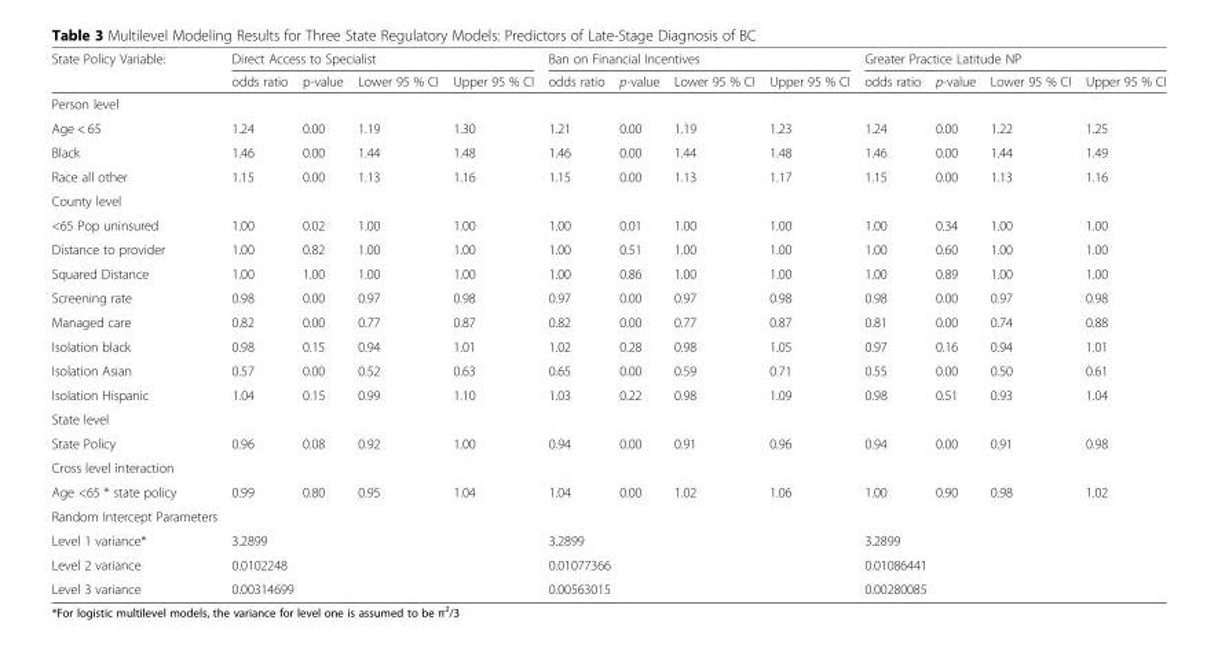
<table><thead><tr><td rowspan="2">State Policy Variable:</td><td colspan="4">Direct Access to Specialist</td><td colspan="4">Ban on Financial Incentives</td><td colspan="4">Greater Practice Latitude NP</td></tr><tr><td>odds ratio</td><td>p-value</td><td>Lower 95 % CI</td><td>Upper 95 % CI</td><td>odds ratio</td><td>p-value</td><td>Lower 95 % CI</td><td>Upper 95 % CI</td><td>odds ratio</td><td>p-value</td><td>Lower 95 % CI</td><td>Upper 95 % CI</td></tr></thead><tbody><tr><td colspan="13">Person level</td></tr><tr><td>Age &lt; 65</td><td>1.24</td><td>0.00</td><td>1.19</td><td>1.30</td><td>1.21</td><td>0.00</td><td>1.19</td><td>1.23</td><td>1.24</td><td>0.00</td><td>1.22</td><td>1.25</td></tr><tr><td>Black</td><td>1.46</td><td>0.00</td><td>1.44</td><td>1.48</td><td>1.46</td><td>0.00</td><td>1.44</td><td>1.48</td><td>1.46</td><td>0.00</td><td>1.44</td><td>1.49</td></tr><tr><td>Race all other</td><td>1.15</td><td>0.00</td><td>1.13</td><td>1.16</td><td>1.15</td><td>0.00</td><td>1.13</td><td>1.17</td><td>1.15</td><td>0.00</td><td>1.13</td><td>1.16</td></tr><tr><td colspan="13">County level</td></tr><tr><td>&lt;65 Pop uninsured</td><td>1.00</td><td>0.02</td><td>1.00</td><td>1.00</td><td>1.00</td><td>0.01</td><td>1.00</td><td>1.00</td><td>1.00</td><td>0.34</td><td>1.00</td><td>1.00</td></tr><tr><td>Distance to provider</td><td>1.00</td><td>0.82</td><td>1.00</td><td>1.00</td><td>1.00</td><td>0.51</td><td>1.00</td><td>1.00</td><td>1.00</td><td>0.60</td><td>1.00</td><td>1.00</td></tr><tr><td>Squared Distance</td><td>1.00</td><td>1.00</td><td>1.00</td><td>1.00</td><td>1.00</td><td>0.86</td><td>1.00</td><td>1.00</td><td>1.00</td><td>0.89</td><td>1.00</td><td>1.00</td></tr><tr><td>Screening rate</td><td>0.98</td><td>0.00</td><td>0.97</td><td>0.98</td><td>0.97</td><td>0.00</td><td>0.97</td><td>0.98</td><td>0.98</td><td>0.00</td><td>0.97</td><td>0.98</td></tr><tr><td>Managed care</td><td>0.82</td><td>0.00</td><td>0.77</td><td>0.87</td><td>0.82</td><td>0.00</td><td>0.77</td><td>0.87</td><td>0.81</td><td>0.00</td><td>0.74</td><td>0.88</td></tr><tr><td>Isolation black</td><td>0.98</td><td>0.15</td><td>0.94</td><td>1.01</td><td>1.02</td><td>0.28</td><td>0.98</td><td>1.05</td><td>0.97</td><td>0.16</td><td>0.94</td><td>1.01</td></tr><tr><td>Isolation Asian</td><td>0.57</td><td>0.00</td><td>0.52</td><td>0.63</td><td>0.65</td><td>0.00</td><td>0.59</td><td>0.71</td><td>0.55</td><td>0.00</td><td>0.50</td><td>0.61</td></tr><tr><td>Isolation Hispanic</td><td>1.04</td><td>0.15</td><td>0.99</td><td>1.10</td><td>1.03</td><td>0.22</td><td>0.98</td><td>1.09</td><td>0.98</td><td>0.51</td><td>0.93</td><td>1.04</td></tr><tr><td colspan="13">State level</td></tr><tr><td>State Policy</td><td>0.96</td><td>0.08</td><td>0.92</td><td>1.00</td><td>0.94</td><td>0.00</td><td>0.91</td><td>0.96</td><td>0.94</td><td>0.00</td><td>0.91</td><td>0.98</td></tr><tr><td colspan="13">Cross level interaction</td></tr><tr><td>Age &lt;65 * state policy</td><td>0.99</td><td>0.80</td><td>0.95</td><td>1.04</td><td>1.04</td><td>0.00</td><td>1.02</td><td>1.06</td><td>1.00</td><td>0.90</td><td>0.98</td><td>1.02</td></tr><tr><td colspan="13">Random Intercept Parameters</td></tr><tr><td>Level 1 variance*</td><td colspan="4">3.2899</td><td colspan="4">3.2899</td><td colspan="4">3.2899</td></tr><tr><td>Level 2 variance</td><td colspan="4">0.0102248</td><td colspan="4">0.01077366</td><td colspan="4">0.01086441</td></tr><tr><td>Level 3 variance</td><td colspan="4">0.00314699</td><td colspan="4">0.00563015</td><td colspan="4">0.00280085</td></tr></tbody></table>